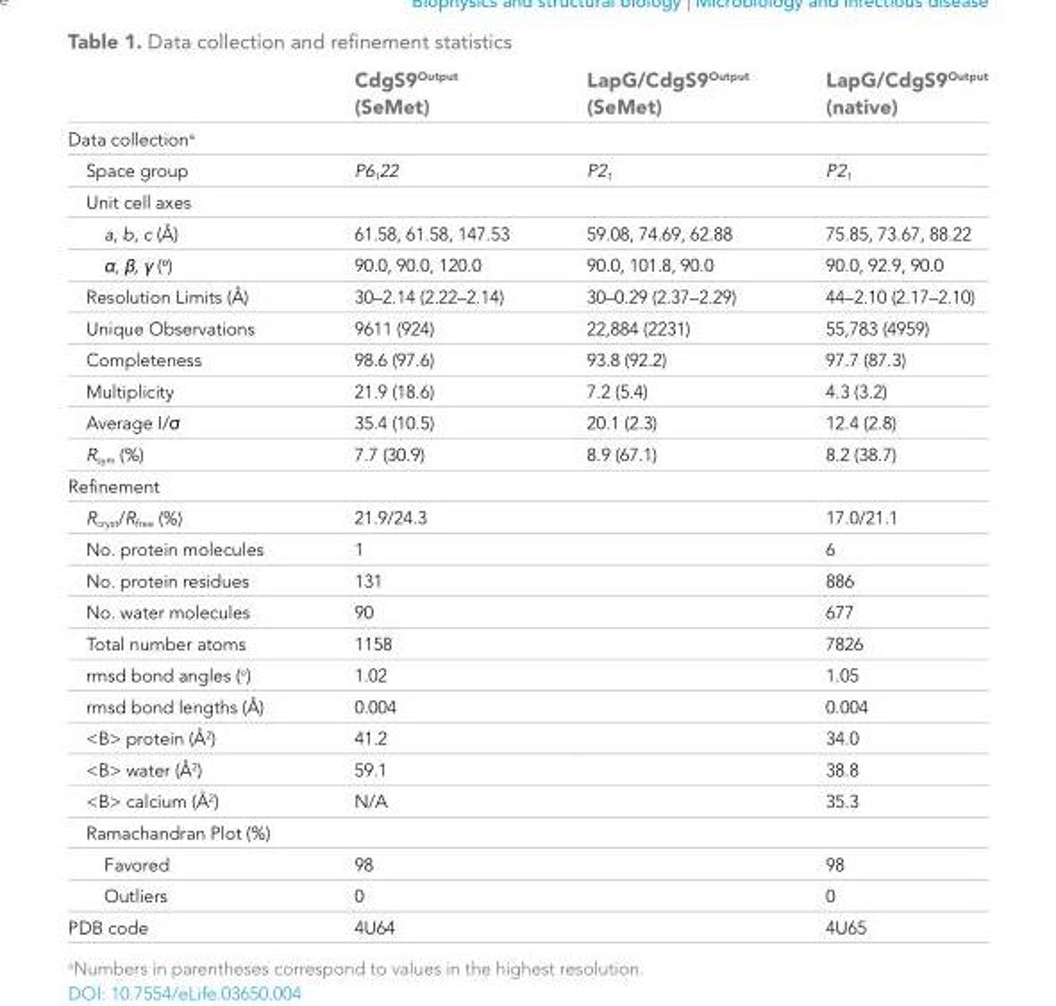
<table><thead><tr><td></td><td>CdgS9<sup>Output</sup> (SeMet)</td><td>LapG/CdgS9<sup>Output</sup> (SeMet)</td><td>LapG/CdgS9<sup>Output</sup> (native)</td></tr></thead><tbody><tr><td colspan="4">Data collection<sup>a</sup></td></tr><tr><td>Space group</td><td>P6<sub>1</sub>22</td><td>P2<sub>1</sub></td><td>P2<sub>1</sub></td></tr><tr><td colspan="4">Unit cell axes</td></tr><tr><td>a, b, c (Å)</td><td>61.58, 61.58, 147.53</td><td>59.08, 74.69, 62.88</td><td>75.85, 73.67, 88.22</td></tr><tr><td>α, β, γ (<sup>ο</sup>)</td><td>90.0, 90.0, 120.0</td><td>90.0, 101.8, 90.0</td><td>90.0, 92.9, 90.0</td></tr><tr><td>Resolution Limits (Å)</td><td>30–2.14 (2.22–2.14)</td><td>30–0.29 (2.37–2.29)</td><td>44–2.10 (2.17–2.10)</td></tr><tr><td>Unique Observations</td><td>9611 (924)</td><td>22,884 (2231)</td><td>55,783 (4959)</td></tr><tr><td>Completeness</td><td>98.6 (97.6)</td><td>93.8 (92.2)</td><td>97.7 (87.3)</td></tr><tr><td>Multiplicity</td><td>21.9 (18.6)</td><td>7.2 (5.4)</td><td>4.3 (3.2)</td></tr><tr><td>Average I/σ</td><td>35.4 (10.5)</td><td>20.1 (2.3)</td><td>12.4 (2.8)</td></tr><tr><td>R<sub>sym</sub> (%)</td><td>7.7 (30.9)</td><td>8.9 (67.1)</td><td>8.2 (38.7)</td></tr><tr><td colspan="4">Refinement</td></tr><tr><td>R<sub>cryst</sub>/R<sub>free</sub> (%)</td><td>21.9/24.3</td><td></td><td>17.0/21.1</td></tr><tr><td>No. protein molecules</td><td>1</td><td></td><td>6</td></tr><tr><td>No. protein residues</td><td>131</td><td></td><td>886</td></tr><tr><td>No. water molecules</td><td>90</td><td></td><td>677</td></tr><tr><td>Total number atoms</td><td>1158</td><td></td><td>7826</td></tr><tr><td>rmsd bond angles (<sup>o</sup>)</td><td>1.02</td><td></td><td>1.05</td></tr><tr><td>rmsd bond lengths (Å)</td><td>0.004</td><td></td><td>0.004</td></tr><tr><td>&lt;B&gt; protein (Å<sup>2</sup>)</td><td>41.2</td><td></td><td>34.0</td></tr><tr><td>&lt;B&gt; water (Å<sup>2</sup>)</td><td>59.1</td><td></td><td>38.8</td></tr><tr><td>&lt;B&gt; calcium (Å<sup>2</sup>)</td><td>N/A</td><td></td><td>35.3</td></tr><tr><td colspan="4">Ramachandran Plot (%)</td></tr><tr><td>Favored</td><td>98</td><td></td><td>98</td></tr><tr><td>Outliers</td><td>0</td><td></td><td>0</td></tr><tr><td>PDB code</td><td>4U64</td><td></td><td>4U65</td></tr></tbody></table>